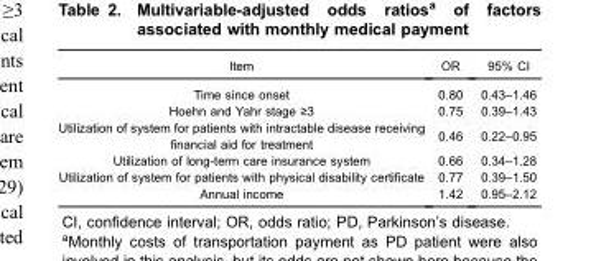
<table><thead><tr><td>Item</td><td>OR</td><td>95% CI</td></tr></thead><tbody><tr><td>Time since onset</td><td>0.80</td><td>0.43–1.46</td></tr><tr><td>Hoehn and Yahr stage ≥3</td><td>0.75</td><td>0.39–1.43</td></tr><tr><td>Utilization of system for patients with intractable disease receiving financial aid for treatment</td><td>0.46</td><td>0.22–0.95</td></tr><tr><td>Utilization of long-term care insurance system</td><td>0.66</td><td>0.34–1.28</td></tr><tr><td>Utilization of system for patients with physical disability certificate</td><td>0.77</td><td>0.39–1.50</td></tr><tr><td>Annual income</td><td>1.42</td><td>0.95–2.12</td></tr></tbody></table>